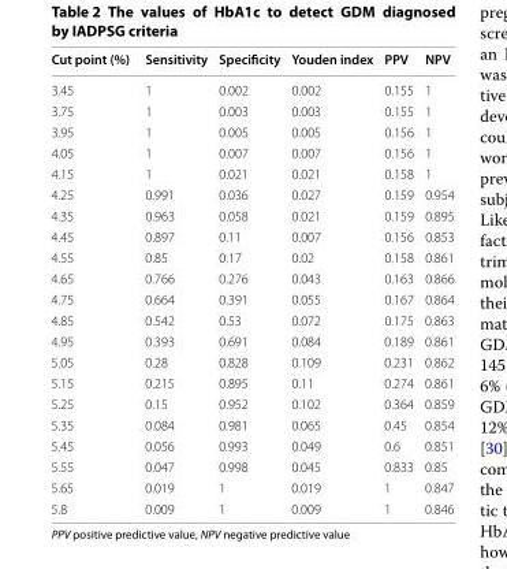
<table><thead><tr><td>Cut point (%)</td><td>Sensitivity</td><td>Specificity</td><td>Youden index</td><td>PPV</td><td>NPV</td></tr></thead><tbody><tr><td>3.45</td><td>1</td><td>0.002</td><td>0.002</td><td>0.155</td><td>1</td></tr><tr><td>3.75</td><td>1</td><td>0.003</td><td>0.003</td><td>0.155</td><td>1</td></tr><tr><td>3.95</td><td>1</td><td>0.005</td><td>0.005</td><td>0.156</td><td>1</td></tr><tr><td>4.05</td><td>1</td><td>0.007</td><td>0.007</td><td>0.156</td><td>1</td></tr><tr><td>4.15</td><td>1</td><td>0.021</td><td>0.021</td><td>0.158</td><td>1</td></tr><tr><td>4.25</td><td>0.991</td><td>0.036</td><td>0.027</td><td>0.159</td><td>0.954</td></tr><tr><td>4.35</td><td>0.963</td><td>0.058</td><td>0.021</td><td>0.159</td><td>0.895</td></tr><tr><td>4.45</td><td>0.897</td><td>0.11</td><td>0.007</td><td>0.156</td><td>0.853</td></tr><tr><td>4.55</td><td>0.85</td><td>0.17</td><td>0.02</td><td>0.158</td><td>0.861</td></tr><tr><td>4.65</td><td>0.766</td><td>0.276</td><td>0.043</td><td>0.163</td><td>0.866</td></tr><tr><td>4.75</td><td>0.664</td><td>0.391</td><td>0.055</td><td>0.167</td><td>0.864</td></tr><tr><td>4.85</td><td>0.542</td><td>0.53</td><td>0.072</td><td>0.175</td><td>0.863</td></tr><tr><td>4.95</td><td>0.393</td><td>0.691</td><td>0.084</td><td>0.189</td><td>0.861</td></tr><tr><td>5.05</td><td>0.28</td><td>0.828</td><td>0.109</td><td>0.231</td><td>0.862</td></tr><tr><td>5.15</td><td>0.215</td><td>0.895</td><td>0.11</td><td>0.274</td><td>0.861</td></tr><tr><td>5.25</td><td>0.15</td><td>0.952</td><td>0.102</td><td>0.364</td><td>0.859</td></tr><tr><td>5.35</td><td>0.084</td><td>0.981</td><td>0.065</td><td>0.45</td><td>0.854</td></tr><tr><td>5.45</td><td>0.056</td><td>0.993</td><td>0.049</td><td>0.6</td><td>0.851</td></tr><tr><td>5.55</td><td>0.047</td><td>0.998</td><td>0.045</td><td>0.833</td><td>0.85</td></tr><tr><td>5.65</td><td>0.019</td><td>1</td><td>0.019</td><td>1</td><td>0.847</td></tr><tr><td>5.8</td><td>0.009</td><td>1</td><td>0.009</td><td>1</td><td>0.846</td></tr></tbody></table>